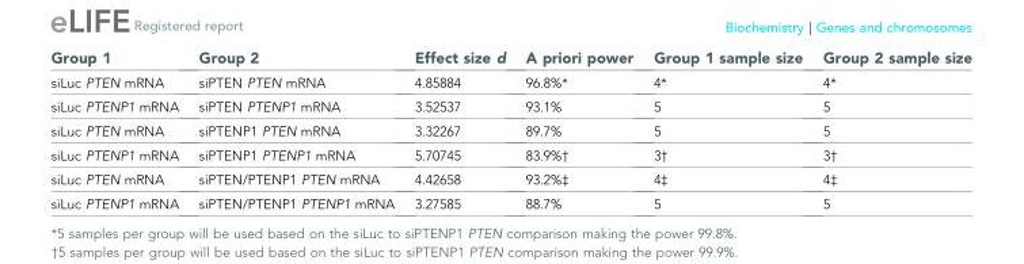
<table><thead><tr><td>Group 1</td><td>Group 2</td><td>Effect size d</td><td>A priori power</td><td>Group 1 sample size</td><td>Group 2 sample size</td></tr></thead><tbody><tr><td>siLuc PTEN mRNA</td><td>siPTEN PTEN mRNA</td><td>4.85884</td><td>96.8%*</td><td>4*</td><td>4*</td></tr><tr><td>siLuc PTENP1 mRNA</td><td>siPTEN PTENP1 mRNA</td><td>3.52537</td><td>93.1%</td><td>5</td><td>5</td></tr><tr><td>siLuc PTEN mRNA</td><td>siPTENP1 PTEN mRNA</td><td>3.32267</td><td>89.7%</td><td>5</td><td>5</td></tr><tr><td>siLuc PTENP1 mRNA</td><td>siPTENP1 PTENP1 mRNA</td><td>5.70745</td><td>83.9%†</td><td>3†</td><td>3†</td></tr><tr><td>siLuc PTEN mRNA</td><td>siPTEN/PTENP1 PTEN mRNA</td><td>4.42658</td><td>93.2%‡</td><td>4‡</td><td>4‡</td></tr><tr><td>siLuc PTENP1 mRNA</td><td>siPTEN/PTENP1 PTENP1 mRNA</td><td>3.27585</td><td>88.7%</td><td>5</td><td>5</td></tr></tbody></table>